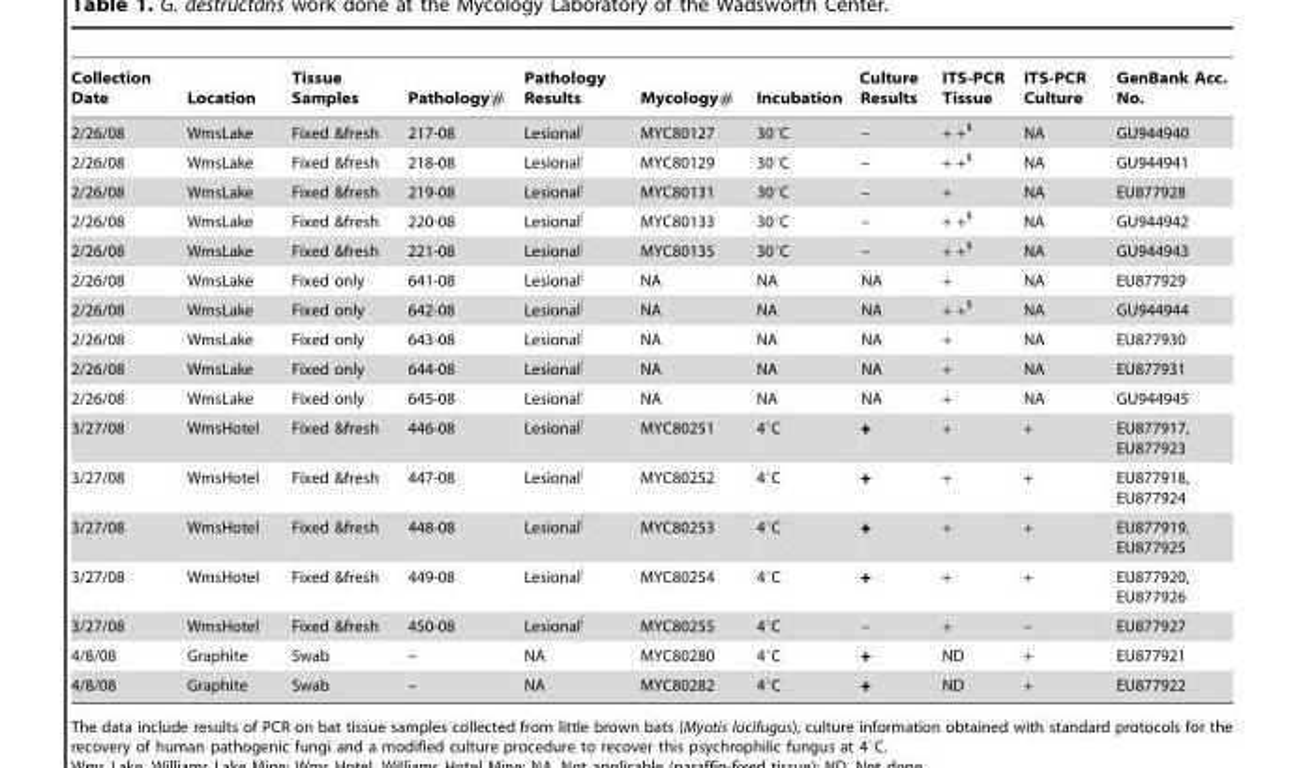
<table><thead><tr><td>Collection Date</td><td>Location</td><td>Tissue Samples</td><td>Pathology#</td><td>Pathology Results</td><td>Mycology#</td><td>Incubation</td><td>Culture Results</td><td>ITS-PCR Tissue</td><td>ITS-PCR Culture</td><td>GenBank Acc. No.</td></tr></thead><tbody><tr><td>2/26/08</td><td>WmsLake</td><td>Fixed &amp;fresh</td><td>217-08</td><td>Lesional∫</td><td>MYC80127</td><td>30°C</td><td>–</td><td>+ +§</td><td>NA</td><td>GU944940</td></tr><tr><td>2/26/08</td><td>WmsLake</td><td>Fixed &amp;fresh</td><td>218-08</td><td>Lesional∫</td><td>MYC80129</td><td>30°C</td><td>–</td><td>+ +§</td><td>NA</td><td>GU944941</td></tr><tr><td>2/26/08</td><td>WmsLake</td><td>Fixed &amp;fresh</td><td>219-08</td><td>Lesional∫</td><td>MYC80131</td><td>30°C</td><td>–</td><td>+</td><td>NA</td><td>EU877928</td></tr><tr><td>2/26/08</td><td>WmsLake</td><td>Fixed &amp;fresh</td><td>220-08</td><td>Lesional∫</td><td>MYC80133</td><td>30°C</td><td>–</td><td>+ +§</td><td>NA</td><td>GU944942</td></tr><tr><td>2/26/08</td><td>WmsLake</td><td>Fixed &amp;fresh</td><td>221-08</td><td>Lesional∫</td><td>MYC80135</td><td>30°C</td><td>–</td><td>+ +§</td><td>NA</td><td>GU944943</td></tr><tr><td>2/26/08</td><td>WmsLake</td><td>Fixed only</td><td>641-08</td><td>Lesional∫</td><td>NA</td><td>NA</td><td>NA</td><td>+</td><td>NA</td><td>EU877929</td></tr><tr><td>2/26/08</td><td>WmsLake</td><td>Fixed only</td><td>642-08</td><td>Lesional∫</td><td>NA</td><td>NA</td><td>NA</td><td>+ +§</td><td>NA</td><td>GU944944</td></tr><tr><td>2/26/08</td><td>WmsLake</td><td>Fixed only</td><td>643-08</td><td>Lesional∫</td><td>NA</td><td>NA</td><td>NA</td><td>+</td><td>NA</td><td>EU877930</td></tr><tr><td>2/26/08</td><td>WmsLake</td><td>Fixed only</td><td>644-08</td><td>Lesional∫</td><td>NA</td><td>NA</td><td>NA</td><td>+</td><td>NA</td><td>EU877931</td></tr><tr><td>2/26/08</td><td>WmsLake</td><td>Fixed only</td><td>645-08</td><td>Lesional∫</td><td>NA</td><td>NA</td><td>NA</td><td>+</td><td>NA</td><td>GU944945</td></tr><tr><td>3/27/08</td><td>WmsHotel</td><td>Fixed &amp;fresh</td><td>446-08</td><td>Lesional∫</td><td>MYC80251</td><td>4°C</td><td>+</td><td>+</td><td>+</td><td>EU877917, EU877923</td></tr><tr><td>3/27/08</td><td>WmsHotel</td><td>Fixed &amp;fresh</td><td>447-08</td><td>Lesional∫</td><td>MYC80252</td><td>4°C</td><td>+</td><td>+</td><td>+</td><td>EU877918, EU877924</td></tr><tr><td>3/27/08</td><td>WmsHotel</td><td>Fixed &amp;fresh</td><td>448-08</td><td>Lesional∫</td><td>MYC80253</td><td>4°C</td><td>+</td><td>+</td><td>+</td><td>EU877919, EU877925</td></tr><tr><td>3/27/08</td><td>WmsHotel</td><td>Fixed &amp;fresh</td><td>449-08</td><td>Lesional∫</td><td>MYC80254</td><td>4°C</td><td>+</td><td>+</td><td>+</td><td>EU877920, EU877926</td></tr><tr><td>3/27/08</td><td>WmsHotel</td><td>Fixed &amp;fresh</td><td>450-08</td><td>Lesional∫</td><td>MYC80255</td><td>4°C</td><td>–</td><td>+</td><td>–</td><td>EU877927</td></tr><tr><td>4/8/08</td><td>Graphite</td><td>Swab</td><td>–</td><td>NA</td><td>MYC80280</td><td>4°C</td><td>+</td><td>ND</td><td>+</td><td>EU877921</td></tr><tr><td>4/8/08</td><td>Graphite</td><td>Swab</td><td>–</td><td>NA</td><td>MYC80282</td><td>4°C</td><td>+</td><td>ND</td><td>+</td><td>EU877922</td></tr></tbody></table>